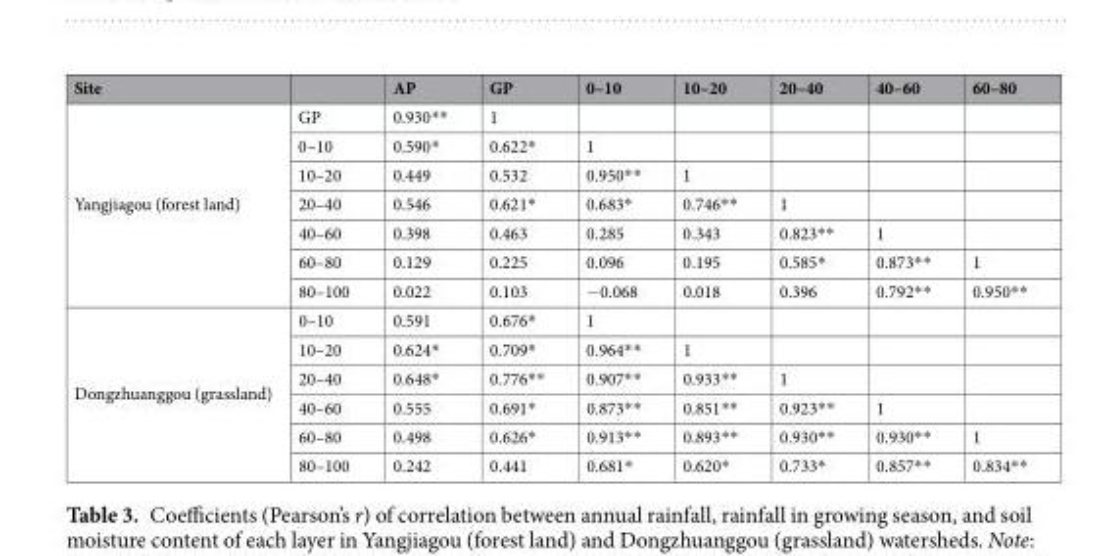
<table><thead><tr><td>Site</td><td></td><td>AP</td><td>GP</td><td>0–10</td><td>10–20</td><td>20–40</td><td>40–60</td><td>60–80</td></tr></thead><tbody><tr><td rowspan="7">Yangjiagou (forest land)</td><td>GP</td><td>0.930**</td><td>1</td><td></td><td></td><td></td><td></td><td></td></tr><tr><td>0–10</td><td>0.590*</td><td>0.622*</td><td>1</td><td></td><td></td><td></td><td></td></tr><tr><td>10–20</td><td>0.449</td><td>0.532</td><td>0.950**</td><td>1</td><td></td><td></td><td></td></tr><tr><td>20–40</td><td>0.546</td><td>0.621*</td><td>0.683*</td><td>0.746**</td><td>1</td><td></td><td></td></tr><tr><td>40–60</td><td>0.398</td><td>0.463</td><td>0.285</td><td>0.343</td><td>0.823**</td><td>1</td><td></td></tr><tr><td>60–80</td><td>0.129</td><td>0.225</td><td>0.096</td><td>0.195</td><td>0.585*</td><td>0.873**</td><td>1</td></tr><tr><td>80–100</td><td>0.022</td><td>0.103</td><td>−0.068</td><td>0.018</td><td>0.396</td><td>0.792**</td><td>0.950**</td></tr><tr><td rowspan="6">Dongzhuanggou (grassland)</td><td>0–10</td><td>0.591</td><td>0.676*</td><td>1</td><td></td><td></td><td></td><td></td></tr><tr><td>10–20</td><td>0.624*</td><td>0.709*</td><td>0.964**</td><td>1</td><td></td><td></td><td></td></tr><tr><td>20–40</td><td>0.648*</td><td>0.776**</td><td>0.907**</td><td>0.933**</td><td>1</td><td></td><td></td></tr><tr><td>40–60</td><td>0.555</td><td>0.691*</td><td>0.873**</td><td>0.851**</td><td>0.923**</td><td>1</td><td></td></tr><tr><td>60–80</td><td>0.498</td><td>0.626*</td><td>0.913**</td><td>0.893**</td><td>0.930**</td><td>0.930**</td><td>1</td></tr><tr><td>80–100</td><td>0.242</td><td>0.441</td><td>0.681*</td><td>0.620*</td><td>0.733*</td><td>0.857**</td><td>0.834**</td></tr></tbody></table>